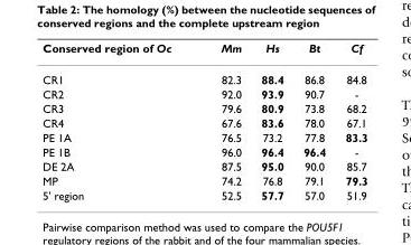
<table><thead><tr><td>Conserved region of Oc</td><td>Mm</td><td>Hs</td><td>Bt</td><td>Cf</td></tr></thead><tbody><tr><td>CR1</td><td>82.3</td><td>88.4</td><td>86.8</td><td>84.8</td></tr><tr><td>CR2</td><td>92.0</td><td>93.9</td><td>90.7</td><td>-</td></tr><tr><td>CR3</td><td>79.6</td><td>80.9</td><td>73.8</td><td>68.2</td></tr><tr><td>CR4</td><td>67.6</td><td>83.6</td><td>78.0</td><td>67.1</td></tr><tr><td>PE 1A</td><td>76.5</td><td>73.2</td><td>77.8</td><td>83.3</td></tr><tr><td>PE 1B</td><td>96.0</td><td>96.4</td><td>96.4</td><td>-</td></tr><tr><td>DE 2A</td><td>87.5</td><td>95.0</td><td>90.0</td><td>85.7</td></tr><tr><td>MP</td><td>74.2</td><td>76.8</td><td>79.1</td><td>79.3</td></tr><tr><td>5&#x27; region</td><td>52.5</td><td>57.7</td><td>57.0</td><td>51.9</td></tr></tbody></table>